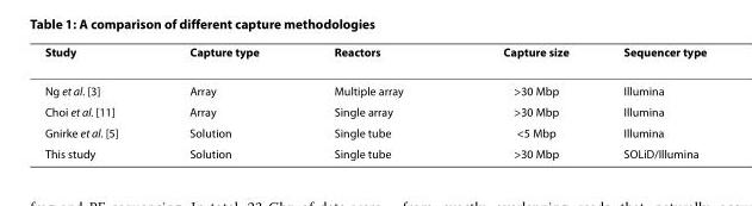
<table><thead><tr><td>Study</td><td>Capture type</td><td>Reactors</td><td>Capture size</td><td>Sequencer type</td></tr></thead><tbody><tr><td>Ng et al. [3]</td><td>Array</td><td>Multiple array</td><td>&gt;30 Mbp</td><td>Illumina</td></tr><tr><td>Choi et al. [11]</td><td>Array</td><td>Single array</td><td>&gt;30 Mbp</td><td>Illumina</td></tr><tr><td>Gnirke et al. [5]</td><td>Solution</td><td>Single tube</td><td>&lt;5 Mbp</td><td>Illumina</td></tr><tr><td>This study</td><td>Solution</td><td>Single tube</td><td>&gt;30 Mbp</td><td>SOLiD/Illumina</td></tr></tbody></table>